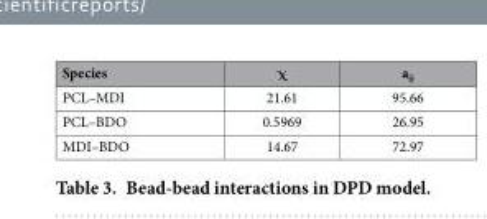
<table><thead><tr><td>Species</td><td>χ</td><td>a<sub>ij</sub></td></tr></thead><tbody><tr><td>PCL–MDI</td><td>21.61</td><td>95.66</td></tr><tr><td>PCL–BDO</td><td>0.5969</td><td>26.95</td></tr><tr><td>MDI–BDO</td><td>14.67</td><td>72.97</td></tr></tbody></table>